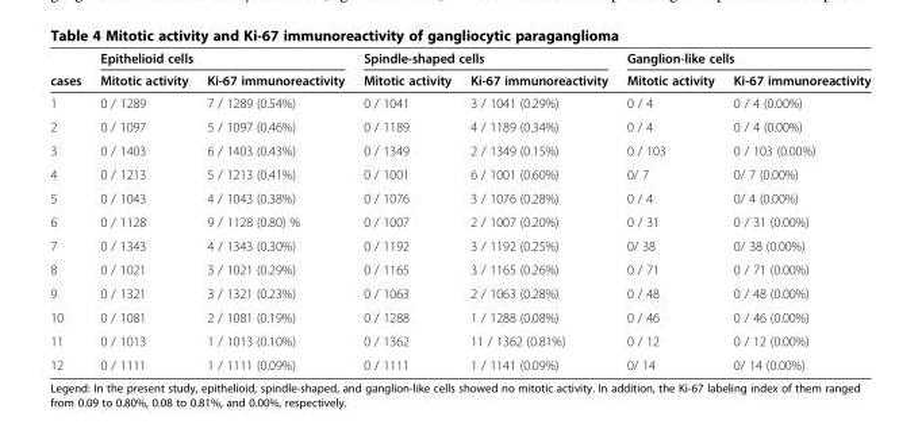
<table><thead><tr><td rowspan="2">cases</td><td colspan="2">Epithelioid cells</td><td colspan="2">Spindle-shaped cells</td><td colspan="2">Ganglion-like cells</td></tr><tr><td>Mitotic activity</td><td>Ki-67 immunoreactivity</td><td>Mitotic activity</td><td>Ki-67 immunoreactivity</td><td>Mitotic activity</td><td>Ki-67 immunoreactivity</td></tr></thead><tbody><tr><td>1</td><td>0 / 1289</td><td>7 / 1289 (0.54%)</td><td>0 / 1041</td><td>3 / 1041 (0.29%)</td><td>0 / 4</td><td>0 / 4 (0.00%)</td></tr><tr><td>2</td><td>0 / 1097</td><td>5 / 1097 (0.46%)</td><td>0 / 1189</td><td>4 / 1189 (0.34%)</td><td>0 / 4</td><td>0 / 4 (0.00%)</td></tr><tr><td>3</td><td>0 / 1403</td><td>6 / 1403 (0.43%)</td><td>0 / 1349</td><td>2 / 1349 (0.15%)</td><td>0 / 103</td><td>0 / 103 (0.00%)</td></tr><tr><td>4</td><td>0 / 1213</td><td>5 / 1213 (0.41%)</td><td>0 / 1001</td><td>6 / 1001 (0.60%)</td><td>0/ 7</td><td>0/ 7 (0.00%)</td></tr><tr><td>5</td><td>0 / 1043</td><td>4 / 1043 (0.38%)</td><td>0 / 1076</td><td>3 / 1076 (0.28%)</td><td>0 / 4</td><td>0/ 4 (0.00%)</td></tr><tr><td>6</td><td>0 / 1128</td><td>9 / 1128 (0.80) %</td><td>0 / 1007</td><td>2 / 1007 (0.20%)</td><td>0 / 31</td><td>0 / 31 (0.00%)</td></tr><tr><td>7</td><td>0 / 1343</td><td>4 / 1343 (0.30%)</td><td>0 / 1192</td><td>3 / 1192 (0.25%)</td><td>0/ 38</td><td>0/ 38 (0.00%)</td></tr><tr><td>8</td><td>0 / 1021</td><td>3 / 1021 (0.29%)</td><td>0 / 1165</td><td>3 / 1165 (0.26%)</td><td>0 / 71</td><td>0 / 71 (0.00%)</td></tr><tr><td>9</td><td>0 / 1321</td><td>3 / 1321 (0.23%)</td><td>0 / 1063</td><td>2 / 1063 (0.28%)</td><td>0 / 48</td><td>0 / 48 (0.00%)</td></tr><tr><td>10</td><td>0 / 1081</td><td>2 / 1081 (0.19%)</td><td>0 / 1288</td><td>1 / 1288 (0.08%)</td><td>0 / 46</td><td>0 / 46 (0.00%)</td></tr><tr><td>11</td><td>0 / 1013</td><td>1 / 1013 (0.10%)</td><td>0 / 1362</td><td>11 / 1362 (0.81%)</td><td>0 / 12</td><td>0 / 12 (0.00%)</td></tr><tr><td>12</td><td>0 / 1111</td><td>1 / 1111 (0.09%)</td><td>0 / 1111</td><td>1 / 1141 (0.09%)</td><td>0/ 14</td><td>0/ 14 (0.00%)</td></tr></tbody></table>